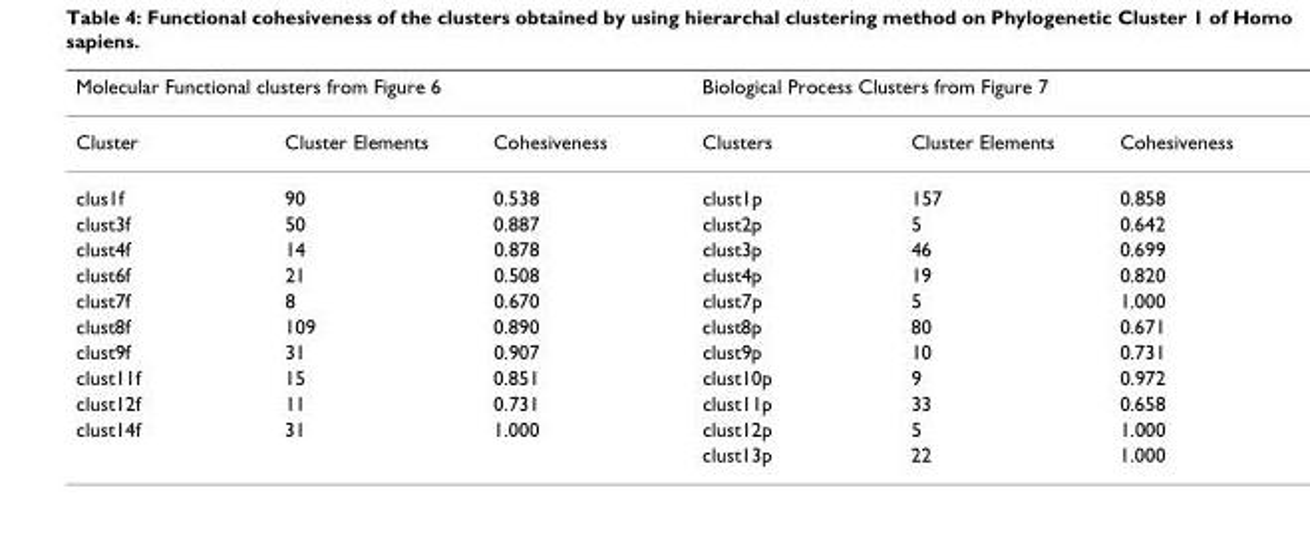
<table><thead><tr><td colspan="3">Molecular Functional clusters from Figure 6</td><td colspan="3">Biological Process Clusters from Figure 7</td></tr><tr><td>Cluster</td><td>Cluster Elements</td><td>Cohesiveness</td><td>Clusters</td><td>Cluster Elements</td><td>Cohesiveness</td></tr></thead><tbody><tr><td>clus1f</td><td>90</td><td>0.538</td><td>clust1p</td><td>157</td><td>0.858</td></tr><tr><td>clust3f</td><td>50</td><td>0.887</td><td>clust2p</td><td>5</td><td>0.642</td></tr><tr><td>clust4f</td><td>14</td><td>0.878</td><td>clust3p</td><td>46</td><td>0.699</td></tr><tr><td>clust6f</td><td>21</td><td>0.508</td><td>clust4p</td><td>19</td><td>0.820</td></tr><tr><td>clust7f</td><td>8</td><td>0.670</td><td>clust7p</td><td>5</td><td>1.000</td></tr><tr><td>clust8f</td><td>109</td><td>0.890</td><td>clust8p</td><td>80</td><td>0.671</td></tr><tr><td>clust9f</td><td>31</td><td>0.907</td><td>clust9p</td><td>10</td><td>0.731</td></tr><tr><td>clust11f</td><td>15</td><td>0.851</td><td>clust10p</td><td>9</td><td>0.972</td></tr><tr><td>clust12f</td><td>11</td><td>0.731</td><td>clust11p</td><td>33</td><td>0.658</td></tr><tr><td rowspan="2">clust14f</td><td>31</td><td>1.000</td><td>clust12p</td><td>5</td><td>1.000</td></tr><tr><td></td><td></td><td>clust13p</td><td>22</td><td>1.000</td></tr></tbody></table>